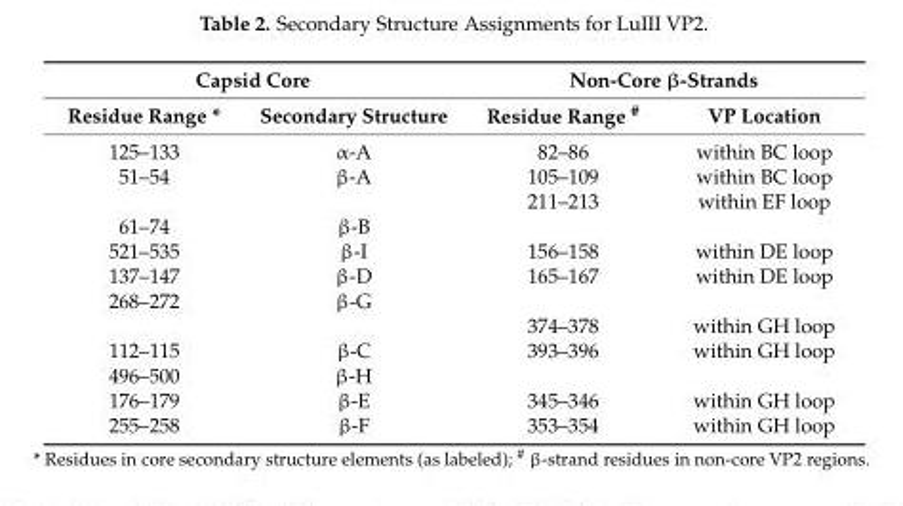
<table><thead><tr><td colspan="2">Capsid Core</td><td colspan="2">Non-Core β-Strands</td></tr><tr><td>Residue Range *</td><td>Secondary Structure</td><td>Residue Range <sup>#</sup></td><td>VP Location</td></tr></thead><tbody><tr><td>125–133</td><td>α-A</td><td>82–86</td><td>within BC loop</td></tr><tr><td rowspan="2">51–54</td><td>β-A</td><td>105–109</td><td>within BC loop</td></tr><tr><td></td><td>211–213</td><td>within EF loop</td></tr><tr><td>61–74</td><td>β-B</td><td></td><td></td></tr><tr><td>521–535</td><td>β-I</td><td>156–158</td><td>within DE loop</td></tr><tr><td>137–147</td><td>β-D</td><td>165–167</td><td>within DE loop</td></tr><tr><td rowspan="2">268–272</td><td>β-G</td><td></td><td></td></tr><tr><td></td><td>374–378</td><td>within GH loop</td></tr><tr><td>112–115</td><td>β-C</td><td>393–396</td><td>within GH loop</td></tr><tr><td>496–500</td><td>β-H</td><td></td><td></td></tr><tr><td>176–179</td><td>β-E</td><td>345–346</td><td>within GH loop</td></tr><tr><td>255–258</td><td>β-F</td><td>353–354</td><td>within GH loop</td></tr></tbody></table>